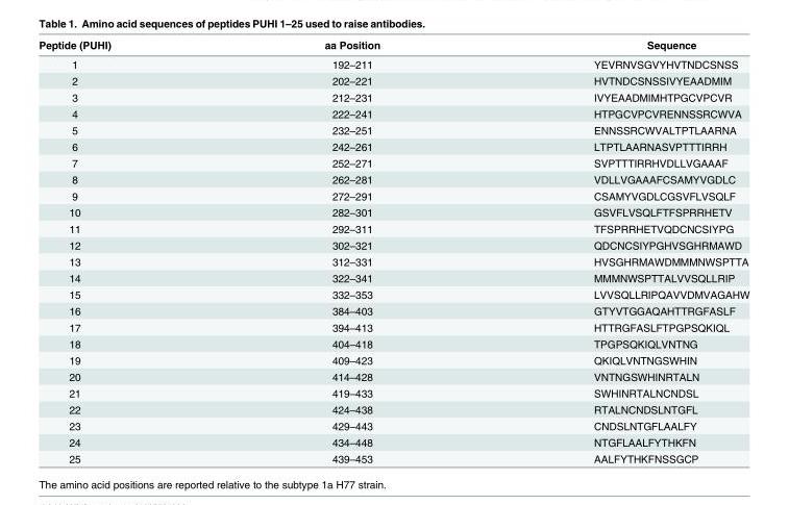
<table><thead><tr><td>Peptide (PUHI)</td><td>aa Position</td><td>Sequence</td></tr></thead><tbody><tr><td>1</td><td>192–211</td><td>YEVRNVSGVYHVTNDCSNSS</td></tr><tr><td>2</td><td>202–221</td><td>HVTNDCSNSSIVYEAADMIM</td></tr><tr><td>3</td><td>212–231</td><td>IVYEAADMIMHTPGCVPCVR</td></tr><tr><td>4</td><td>222–241</td><td>HTPGCVPCVRENNSSRCWVA</td></tr><tr><td>5</td><td>232–251</td><td>ENNSSRCWVALTPTLAARNA</td></tr><tr><td>6</td><td>242–261</td><td>LTPTLAARNASVPTTTIRRH</td></tr><tr><td>7</td><td>252–271</td><td>SVPTTTIRRHVDLLVGAAAF</td></tr><tr><td>8</td><td>262–281</td><td>VDLLVGAAAFCSAMYVGDLC</td></tr><tr><td>9</td><td>272–291</td><td>CSAMYVGDLCGSVFLVSQLF</td></tr><tr><td>10</td><td>282–301</td><td>GSVFLVSQLFTFSPRRHETV</td></tr><tr><td>11</td><td>292–311</td><td>TFSPRRHETVQDCNCSIYPG</td></tr><tr><td>12</td><td>302–321</td><td>QDCNCSIYPGHVSGHRMAWD</td></tr><tr><td>13</td><td>312–331</td><td>HVSGHRMAWDMMMNWSPTTA</td></tr><tr><td>14</td><td>322–341</td><td>MMMNWSPTTALVVSQLLRIP</td></tr><tr><td>15</td><td>332–353</td><td>LVVSQLLRIPQAVVDMVAGAHW</td></tr><tr><td>16</td><td>384–403</td><td>GTYVTGGAQAHTTRGFASLF</td></tr><tr><td>17</td><td>394–413</td><td>HTTRGFASLFTPGPSQKIQL</td></tr><tr><td>18</td><td>404–418</td><td>TPGPSQKIQLVNTNG</td></tr><tr><td>19</td><td>409–423</td><td>QKIQLVNTNGSWHIN</td></tr><tr><td>20</td><td>414–428</td><td>VNTNGSWHINRTALN</td></tr><tr><td>21</td><td>419–433</td><td>SWHINRTALNCNDSL</td></tr><tr><td>22</td><td>424–438</td><td>RTALNCNDSLNTGFL</td></tr><tr><td>23</td><td>429–443</td><td>CNDSLNTGFLAALFY</td></tr><tr><td>24</td><td>434–448</td><td>NTGFLAALFYTHKFN</td></tr><tr><td>25</td><td>439–453</td><td>AALFYTHKFNSSGCP</td></tr></tbody></table>